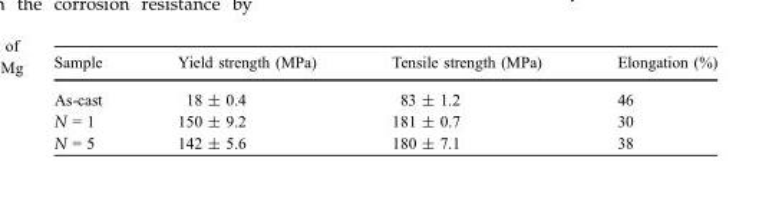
<table><thead><tr><td>Sample</td><td>Yield strength (MPa)</td><td>Tensile strength (MPa)</td><td>Elongation (%)</td></tr></thead><tbody><tr><td>As-cast</td><td>18 ± 0.4</td><td>83 ± 1.2</td><td>46</td></tr><tr><td>N = 1</td><td>150 ± 9.2</td><td>181 ± 0.7</td><td>30</td></tr><tr><td>N = 5</td><td>142 ± 5.6</td><td>180 ± 7.1</td><td>38</td></tr></tbody></table>